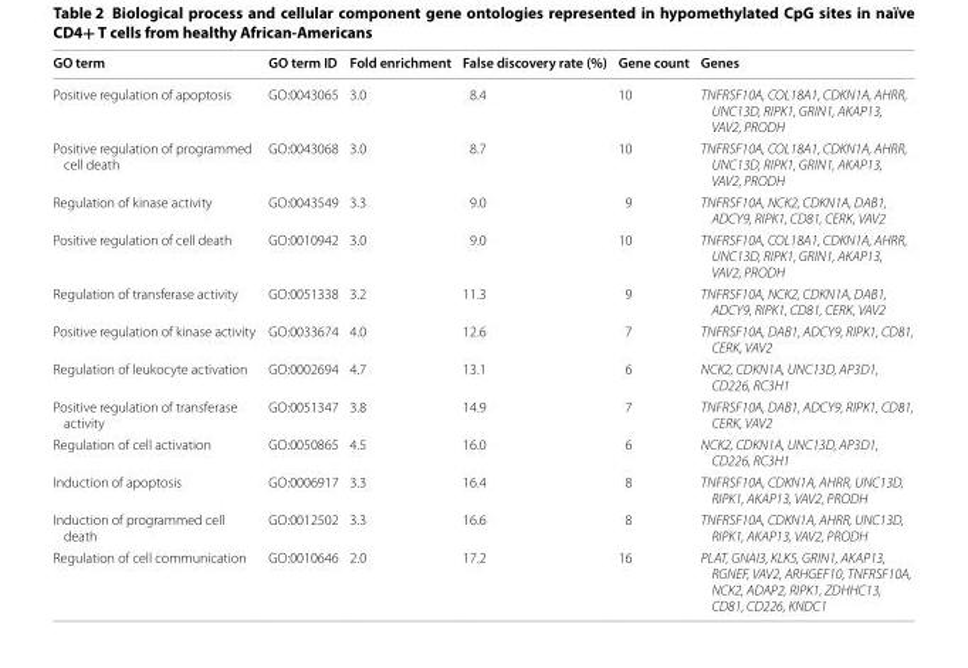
<table><thead><tr><td>GO term</td><td>GO term ID</td><td>Fold enrichment</td><td>False discovery rate (%)</td><td>Gene count</td><td>Genes</td></tr></thead><tbody><tr><td>Positive regulation of apoptosis</td><td>GO:0043065</td><td>3.0</td><td>8.4</td><td>10</td><td>TNFRSF10A, COL18A1, CDKN1A, AHRR, UNC13D, RIPK1, GRIN1, AKAP13, VAV2, PRODH</td></tr><tr><td>Positive regulation of programmed cell death</td><td>GO:0043068</td><td>3.0</td><td>8.7</td><td>10</td><td>TNFRSF10A, COL18A1, CDKN1A, AHRR, UNC13D, RIPK1, GRIN1, AKAP13, VAV2, PRODH</td></tr><tr><td>Regulation of kinase activity</td><td>GO:0043549</td><td>3.3</td><td>9.0</td><td>9</td><td>TNFRSF10A, NCK2, CDKN1A, DAB1, ADCY9, RIPK1, CD81, CERK, VAV2</td></tr><tr><td>Positive regulation of cell death</td><td>GO:0010942</td><td>3.0</td><td>9.0</td><td>10</td><td>TNFRSF10A, COL18A1, CDKN1A, AHRR, UNC13D, RIPK1, GRIN1, AKAP13, VAV2, PRODH</td></tr><tr><td>Regulation of transferase activity</td><td>GO:0051338</td><td>3.2</td><td>11.3</td><td>9</td><td>TNFRSF10A, NCK2, CDKN1A, DAB1, ADCY9, RIPK1, CD81, CERK, VAV2</td></tr><tr><td>Positive regulation of kinase activity</td><td>GO:0033674</td><td>4.0</td><td>12.6</td><td>7</td><td>TNFRSF10A, DAB1, ADCY9, RIPK1, CD81, CERK, VAV2</td></tr><tr><td>Regulation of leukocyte activation</td><td>GO:0002694</td><td>4.7</td><td>13.1</td><td>6</td><td>NCK2, CDKN1A, UNC13D, AP3D1, CD226, RC3H1</td></tr><tr><td>Positive regulation of transferase activity</td><td>GO:0051347</td><td>3.8</td><td>14.9</td><td>7</td><td>TNFRSF10A, DAB1, ADCY9, RIPK1, CD81, CERK, VAV2</td></tr><tr><td>Regulation of cell activation</td><td>GO:0050865</td><td>4.5</td><td>16.0</td><td>6</td><td>NCK2, CDKN1A, UNC13D, AP3D1, CD226, RC3H1</td></tr><tr><td>Induction of apoptosis</td><td>GO:0006917</td><td>3.3</td><td>16.4</td><td>8</td><td>TNFRSF10A, CDKN1A, AHRR, UNC13D, RIPK1, AKAP13, VAV2, PRODH</td></tr><tr><td>Induction of programmed cell death</td><td>GO:0012502</td><td>3.3</td><td>16.6</td><td>8</td><td>TNFRSF10A, CDKN1A, AHRR, UNC13D, RIPK1, AKAP13, VAV2, PRODH</td></tr><tr><td>Regulation of cell communication</td><td>GO:0010646</td><td>2.0</td><td>17.2</td><td>16</td><td>PLAT, GNAI3, KLK5, GRIN1, AKAP13, RGNEF, VAV2, ARHGEF10, TNFRSF10A, NCK2, ADAP2, RIPK1, ZDHHC13, CD81, CD226, KNDC1</td></tr></tbody></table>